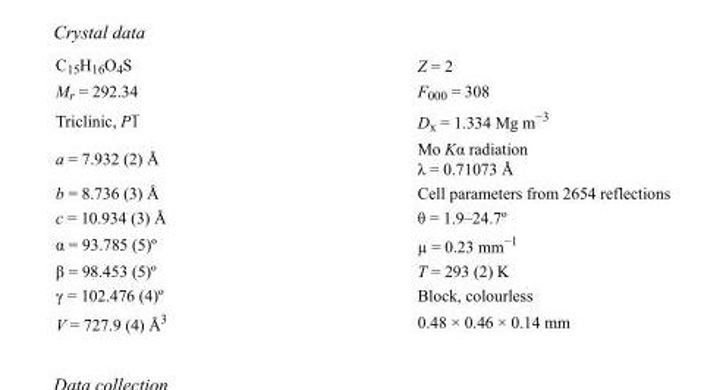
<table><tbody><tr><td>C<sub>15</sub>H<sub>16</sub>O<sub>4</sub>S</td><td>Z = 2</td></tr><tr><td>M<sub>r</sub> = 292.34</td><td>F<sub>000</sub> = 308</td></tr><tr><td>Triclinic, P1</td><td>D<sub>x</sub> = 1.334 Mg m<sup>−3</sup></td></tr><tr><td>a = 7.932 (2) Å</td><td>Mo Kα radiation λ = 0.71073 Å</td></tr><tr><td>b = 8.736 (3) Å</td><td>Cell parameters from 2654 reflections</td></tr><tr><td>c = 10.934 (3) Å</td><td>θ = 1.9–24.7º</td></tr><tr><td>α = 93.785 (5)º</td><td>µ = 0.23 mm<sup>−1</sup></td></tr><tr><td>β = 98.453 (5)º</td><td>T = 293 (2) K</td></tr><tr><td>γ = 102.476 (4)º</td><td>Block, colourless</td></tr><tr><td>V = 727.9 (4) Å<sup>3</sup></td><td>0.48 × 0.46 × 0.14 mm</td></tr></tbody></table>